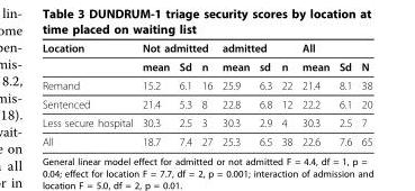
<table><thead><tr><td rowspan="2">Location</td><td colspan="3">Not admitted</td><td colspan="3">admitted</td><td colspan="3">All</td></tr><tr><td>mean</td><td>Sd</td><td>n</td><td>mean</td><td>sd</td><td>n</td><td>mean</td><td>Sd</td><td>N</td></tr></thead><tbody><tr><td>Remand</td><td>15.2</td><td>6.1</td><td>16</td><td>25.9</td><td>6.3</td><td>22</td><td>21.4</td><td>8.1</td><td>38</td></tr><tr><td>Sentenced</td><td>21.4</td><td>5.3</td><td>8</td><td>22.8</td><td>6.8</td><td>12</td><td>22.2</td><td>6.1</td><td>20</td></tr><tr><td>Less secure hospital</td><td>30.3</td><td>2.5</td><td>3</td><td>30.3</td><td>2.9</td><td>4</td><td>30.3</td><td>2.5</td><td>7</td></tr><tr><td>All</td><td>18.7</td><td>7.4</td><td>27</td><td>25.3</td><td>6.5</td><td>38</td><td>22.6</td><td>7.6</td><td>65</td></tr></tbody></table>